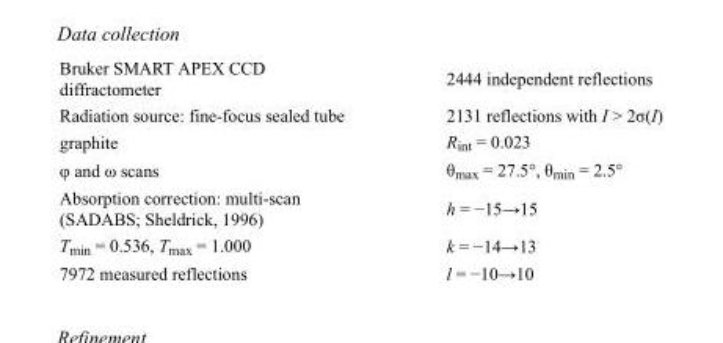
<table><tbody><tr><td>Bruker SMART APEX CCD diffractometer</td><td>2444 independent reflections</td></tr><tr><td>Radiation source: fine-focus sealed tube</td><td>2131 reflections with I &gt; 2σ(I)</td></tr><tr><td>graphite</td><td>R<sub>int</sub> = 0.023</td></tr><tr><td>φ and ω scans</td><td>θ<sub>max</sub> = 27.5°, θ<sub>min</sub> = 2.5°</td></tr><tr><td>Absorption correction: multi-scan (SADABS; Sheldrick, 1996)</td><td>h = −15→15</td></tr><tr><td>T<sub>min</sub> = 0.536, T<sub>max</sub> = 1.000</td><td>k = −14→13</td></tr><tr><td>7972 measured reflections</td><td>l = −10→10</td></tr></tbody></table>